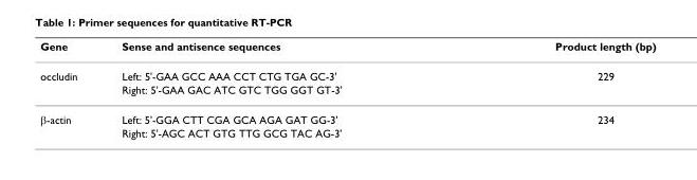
<table><thead><tr><td>Gene</td><td>Sense and antisence sequences</td><td>Product length (bp)</td></tr></thead><tbody><tr><td rowspan="2">occludin</td><td>Left: 5&#x27;-GAA GCC AAA CCT CTG TGA GC-3&#x27;</td><td>229</td></tr><tr><td>Right: 5&#x27;-GAA GAC ATC GTC TGG GGT GT-3&#x27;</td><td></td></tr><tr><td rowspan="2">β-actin</td><td>Left: 5&#x27;-GGA CTT CGA GCA AGA GAT GG-3&#x27;</td><td>234</td></tr><tr><td>Right: 5&#x27;-AGC ACT GTG TTG GCG TAC AG-3&#x27;</td><td></td></tr></tbody></table>